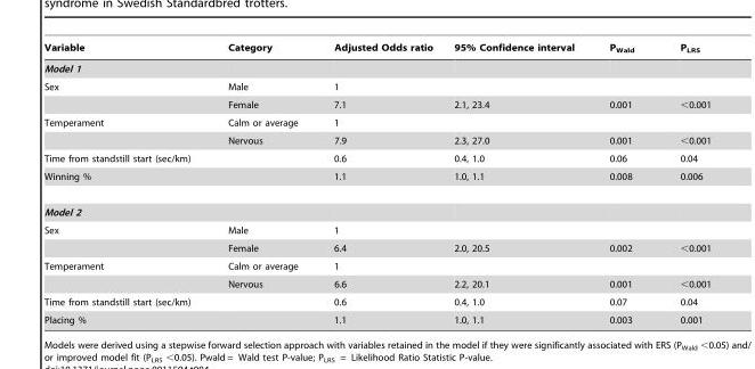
<table><thead><tr><td>Variable</td><td>Category</td><td>Adjusted Odds ratio</td><td>95% Confidence interval</td><td>P<sub>Wald</sub></td><td>P<sub>LRS</sub></td></tr></thead><tbody><tr><td colspan="6">Model 1</td></tr><tr><td rowspan="2">Sex</td><td>Male</td><td>1</td><td></td><td></td><td></td></tr><tr><td>Female</td><td>7.1</td><td>2.1, 23.4</td><td>0.001</td><td>&lt;0.001</td></tr><tr><td rowspan="2">Temperament</td><td>Calm or average</td><td>1</td><td></td><td></td><td></td></tr><tr><td>Nervous</td><td>7.9</td><td>2.3, 27.0</td><td>0.001</td><td>&lt;0.001</td></tr><tr><td colspan="2">Time from standstill start (sec/km)</td><td>0.6</td><td>0.4, 1.0</td><td>0.06</td><td>0.04</td></tr><tr><td>Winning %</td><td></td><td>1.1</td><td>1.0, 1.1</td><td>0.008</td><td>0.006</td></tr><tr><td colspan="6">Model 2</td></tr><tr><td rowspan="2">Sex</td><td>Male</td><td>1</td><td></td><td></td><td></td></tr><tr><td>Female</td><td>6.4</td><td>2.0, 20.5</td><td>0.002</td><td>&lt;0.001</td></tr><tr><td rowspan="2">Temperament</td><td>Calm or average</td><td>1</td><td></td><td></td><td></td></tr><tr><td>Nervous</td><td>6.6</td><td>2.2, 20.1</td><td>0.001</td><td>&lt;0.001</td></tr><tr><td colspan="2">Time from standstill start (sec/km)</td><td>0.6</td><td>0.4, 1.0</td><td>0.07</td><td>0.04</td></tr><tr><td>Placing %</td><td></td><td>1.1</td><td>1.0, 1.1</td><td>0.003</td><td>0.001</td></tr></tbody></table>